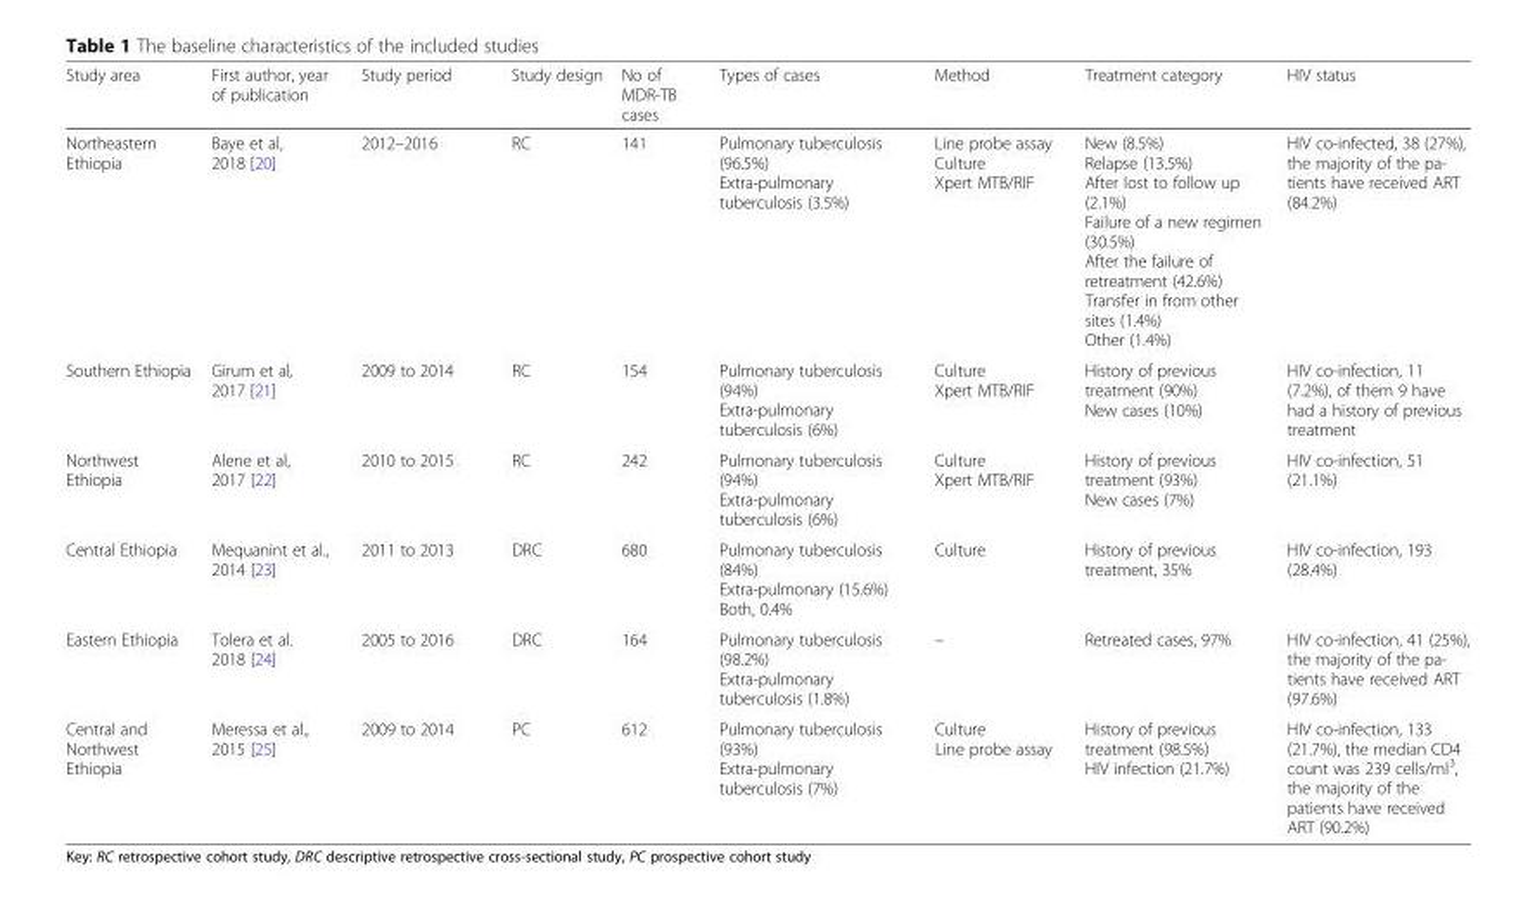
<table><thead><tr><td>Study area</td><td>First author, year of publication</td><td>Study period</td><td>Study design</td><td>No of MDR-TB cases</td><td>Types of cases</td><td>Method</td><td>Treatment category</td><td>HIV status</td></tr></thead><tbody><tr><td>Northeastern Ethiopia</td><td>Baye et al, 2018 [20]</td><td>2012–2016</td><td>RC</td><td>141</td><td>Pulmonary tuberculosis (96.5%) Extra-pulmonary tuberculosis (3.5%)</td><td>Line probe assay Culture Xpert MTB/RIF</td><td>New (8.5%) Relapse (13.5%) After lost to follow up (2.1%) Failure of a new regimen (30.5%) After the failure of retreatment (42.6%) Transfer in from other sites (1.4%) Other (1.4%)</td><td>HIV co-infected, 38 (27%), the majority of the pa- tients have received ART (84.2%)</td></tr><tr><td>Southern Ethiopia</td><td>Girum et al, 2017 [21]</td><td>2009 to 2014</td><td>RC</td><td>154</td><td>Pulmonary tuberculosis (94%) Extra-pulmonary tuberculosis (6%)</td><td>Culture Xpert MTB/RIF</td><td>History of previous treatment (90%) New cases (10%)</td><td>HIV co-infection, 11 (7.2%), of them 9 have had a history of previous treatment</td></tr><tr><td>Northwest Ethiopia</td><td>Alene et al, 2017 [22]</td><td>2010 to 2015</td><td>RC</td><td>242</td><td>Pulmonary tuberculosis (94%) Extra-pulmonary tuberculosis (6%)</td><td>Culture Xpert MTB/RIF</td><td>History of previous treatment (93%) New cases (7%)</td><td>HIV co-infection, 51 (21.1%)</td></tr><tr><td>Central Ethiopia</td><td>Mequanint et al., 2014 [23]</td><td>2011 to 2013</td><td>DRC</td><td>680</td><td>Pulmonary tuberculosis (84%) Extra-pulmonary (15.6%) Both, 0.4%</td><td>Culture</td><td>History of previous treatment, 35%</td><td>HIV co-infection, 193 (28.4%)</td></tr><tr><td>Eastern Ethiopia</td><td>Tolera et al. 2018 [24]</td><td>2005 to 2016</td><td>DRC</td><td>164</td><td>Pulmonary tuberculosis (98.2%) Extra-pulmonary tuberculosis (1.8%)</td><td>–</td><td>Retreated cases, 97%</td><td>HIV co-infection, 41 (25%), the majority of the pa- tients have received ART (97.6%)</td></tr><tr><td>Central and Northwest Ethiopia</td><td>Meressa et al., 2015 [25]</td><td>2009 to 2014</td><td>PC</td><td>612</td><td>Pulmonary tuberculosis (93%) Extra-pulmonary tuberculosis (7%)</td><td>Culture Line probe assay</td><td>History of previous treatment (98.5%) HIV infection (21.7%)</td><td>HIV co-infection, 133 (21.7%), the median CD4 count was 239 cells/ml<sup>3</sup>, the majority of the patients have received ART (90.2%)</td></tr></tbody></table>